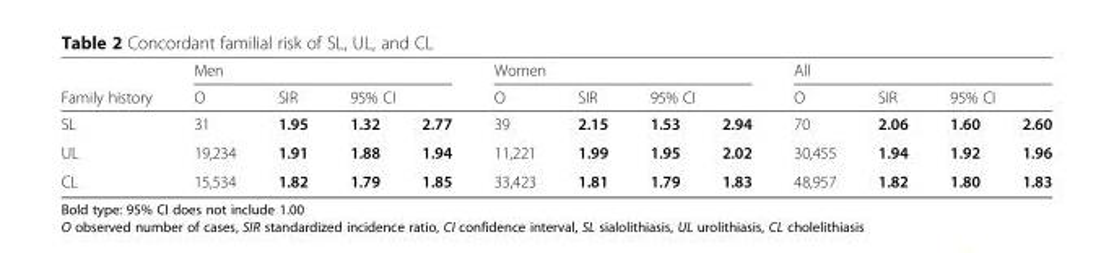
<table><thead><tr><td rowspan="3">Family history SL</td><td colspan="4">Men</td><td colspan="4">Women</td><td colspan="4">All</td></tr><tr><td rowspan="2">O 31</td><td rowspan="2">SIR 1.95</td><td colspan="2">95% CI</td><td rowspan="2">O 39</td><td rowspan="2">SIR 2.15</td><td colspan="2">95% CI</td><td rowspan="2">O 70</td><td rowspan="2">SIR 2.06</td><td colspan="2">95% CI</td></tr><tr><td>1.32</td><td>2.77</td><td>1.53</td><td>2.94</td><td>1.60</td><td>2.60</td></tr></thead><tbody><tr><td>UL</td><td>19,234</td><td>1.91</td><td>1.88</td><td>1.94</td><td>11,221</td><td>1.99</td><td>1.95</td><td>2.02</td><td>30,455</td><td>1.94</td><td>1.92</td><td>1.96</td></tr><tr><td>CL</td><td>15,534</td><td>1.82</td><td>1.79</td><td>1.85</td><td>33,423</td><td>1.81</td><td>1.79</td><td>1.83</td><td>48,957</td><td>1.82</td><td>1.80</td><td>1.83</td></tr></tbody></table>